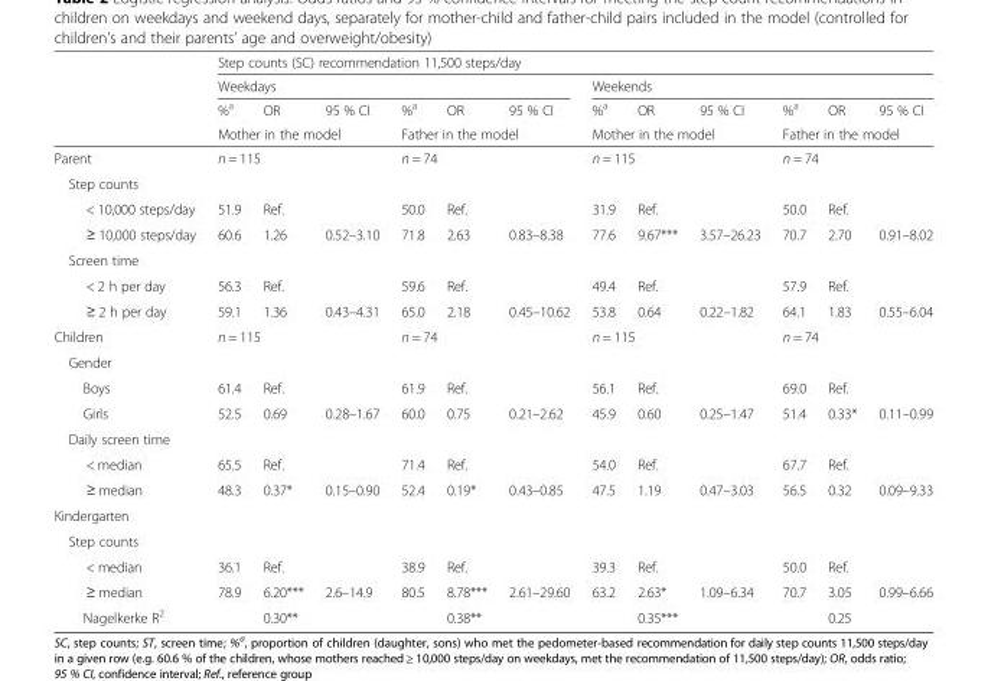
<table><thead><tr><td rowspan="4"></td><td colspan="12">Step counts (SC) recommendation 11,500 steps/day</td></tr><tr><td colspan="6">Weekdays</td><td colspan="6">Weekends</td></tr><tr><td>%<sup>a</sup></td><td>OR</td><td>95 % CI</td><td>%<sup>a</sup></td><td>OR</td><td>95 % CI</td><td>%<sup>a</sup></td><td>OR</td><td>95 % CI</td><td>%<sup>a</sup></td><td>OR</td><td>95 % CI</td></tr><tr><td colspan="3">Mother in the model</td><td colspan="3">Father in the model</td><td colspan="3">Mother in the model</td><td colspan="3">Father in the model</td></tr></thead><tbody><tr><td>Parent</td><td colspan="3">n = 115</td><td colspan="3">n = 74</td><td colspan="3">n = 115</td><td colspan="3">n = 74</td></tr><tr><td colspan="13">Step counts</td></tr><tr><td>&lt; 10,000 steps/day</td><td>51.9</td><td>Ref.</td><td></td><td>50.0</td><td>Ref.</td><td></td><td>31.9</td><td>Ref.</td><td></td><td>50.0</td><td>Ref.</td><td></td></tr><tr><td>≥ 10,000 steps/day</td><td>60.6</td><td>1.26</td><td>0.52–3.10</td><td>71.8</td><td>2.63</td><td>0.83–8.38</td><td>77.6</td><td>9.67***</td><td>3.57–26.23</td><td>70.7</td><td>2.70</td><td>0.91–8.02</td></tr><tr><td colspan="13">Screen time</td></tr><tr><td>&lt; 2 h per day</td><td>56.3</td><td>Ref.</td><td></td><td>59.6</td><td>Ref.</td><td></td><td>49.4</td><td>Ref.</td><td></td><td>57.9</td><td>Ref.</td><td></td></tr><tr><td>≥ 2 h per day</td><td>59.1</td><td>1.36</td><td>0.43–4.31</td><td>65.0</td><td>2.18</td><td>0.45–10.62</td><td>53.8</td><td>0.64</td><td>0.22–1.82</td><td>64.1</td><td>1.83</td><td>0.55–6.04</td></tr><tr><td>Children</td><td colspan="3">n = 115</td><td colspan="3">n = 74</td><td colspan="3">n = 115</td><td colspan="3">n = 74</td></tr><tr><td colspan="13">Gender</td></tr><tr><td>Boys</td><td>61.4</td><td>Ref.</td><td></td><td>61.9</td><td>Ref.</td><td></td><td>56.1</td><td>Ref.</td><td></td><td>69.0</td><td>Ref.</td><td></td></tr><tr><td>Girls</td><td>52.5</td><td>0.69</td><td>0.28–1.67</td><td>60.0</td><td>0.75</td><td>0.21–2.62</td><td>45.9</td><td>0.60</td><td>0.25–1.47</td><td>51.4</td><td>0.33*</td><td>0.11–0.99</td></tr><tr><td colspan="13">Daily screen time</td></tr><tr><td>&lt; median</td><td>65.5</td><td>Ref.</td><td></td><td>71.4</td><td>Ref.</td><td></td><td>54.0</td><td>Ref.</td><td></td><td>67.7</td><td>Ref.</td><td></td></tr><tr><td>≥ median</td><td>48.3</td><td>0.37*</td><td>0.15–0.90</td><td>52.4</td><td>0.19*</td><td>0.43–0.85</td><td>47.5</td><td>1.19</td><td>0.47–3.03</td><td>56.5</td><td>0.32</td><td>0.09–9.33</td></tr><tr><td colspan="13">Kindergarten</td></tr><tr><td colspan="13">Step counts</td></tr><tr><td>&lt; median</td><td>36.1</td><td>Ref.</td><td></td><td>38.9</td><td>Ref.</td><td></td><td>39.3</td><td>Ref.</td><td></td><td>50.0</td><td>Ref.</td><td></td></tr><tr><td>≥ median</td><td>78.9</td><td>6.20***</td><td>2.6–14.9</td><td>80.5</td><td>8.78***</td><td>2.61–29.60</td><td>63.2</td><td>2.63*</td><td>1.09–6.34</td><td>70.7</td><td>3.05</td><td>0.99–6.66</td></tr><tr><td>Nagelkerke R<sup>2</sup></td><td></td><td>0.30**</td><td></td><td></td><td>0.38**</td><td></td><td></td><td>0.35***</td><td></td><td></td><td>0.25</td><td></td></tr></tbody></table>